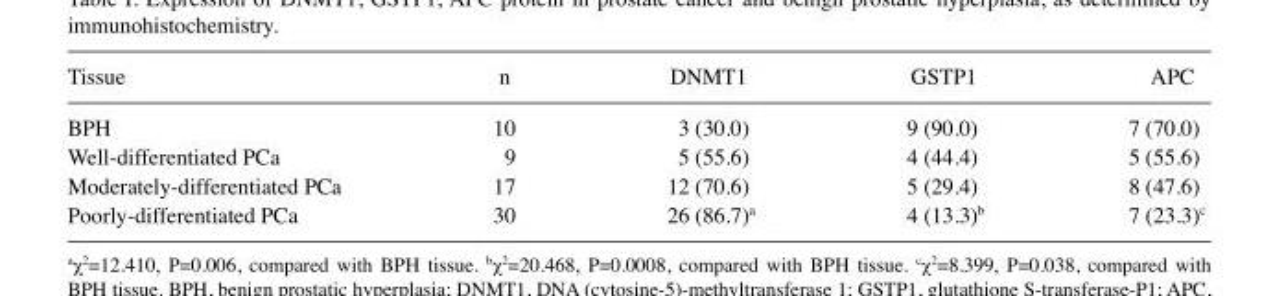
<table><thead><tr><td>Tissue</td><td>n</td><td>DNMT1</td><td>GSTP1</td><td>APC</td></tr></thead><tbody><tr><td>BPH</td><td>10</td><td>3 (30.0)</td><td>9 (90.0)</td><td>7 (70.0)</td></tr><tr><td>Well‑differentiated PCa</td><td>9</td><td>5 (55.6)</td><td>4 (44.4)</td><td>5 (55.6)</td></tr><tr><td>Moderately‑differentiated PCa</td><td>17</td><td>12 (70.6)</td><td>5 (29.4)</td><td>8 (47.6)</td></tr><tr><td>Poorly‑differentiated PCa</td><td>30</td><td>26 (86.7)<sup>a</sup></td><td>4 (13.3)<sup>b</sup></td><td>7 (23.3)<sup>c</sup></td></tr></tbody></table>